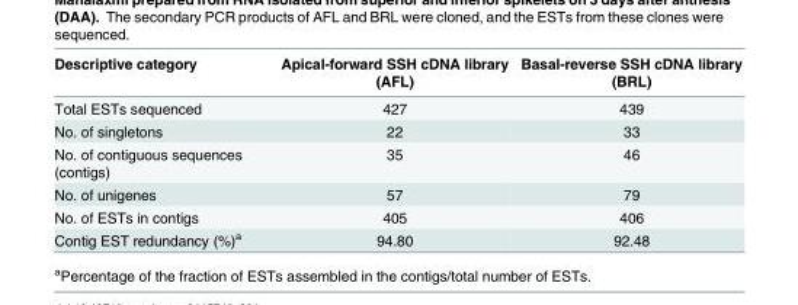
<table><thead><tr><td>Descriptive category</td><td>Apical-forward SSH cDNA library (AFL)</td><td>Basal-reverse SSH cDNA library (BRL)</td></tr></thead><tbody><tr><td>Total ESTs sequenced</td><td>427</td><td>439</td></tr><tr><td>No. of singletons</td><td>22</td><td>33</td></tr><tr><td>No. of contiguous sequences (contigs)</td><td>35</td><td>46</td></tr><tr><td>No. of unigenes</td><td>57</td><td>79</td></tr><tr><td>No. of ESTs in contigs</td><td>405</td><td>406</td></tr><tr><td>Contig EST redundancy (%)<sup>a</sup></td><td>94.80</td><td>92.48</td></tr></tbody></table>